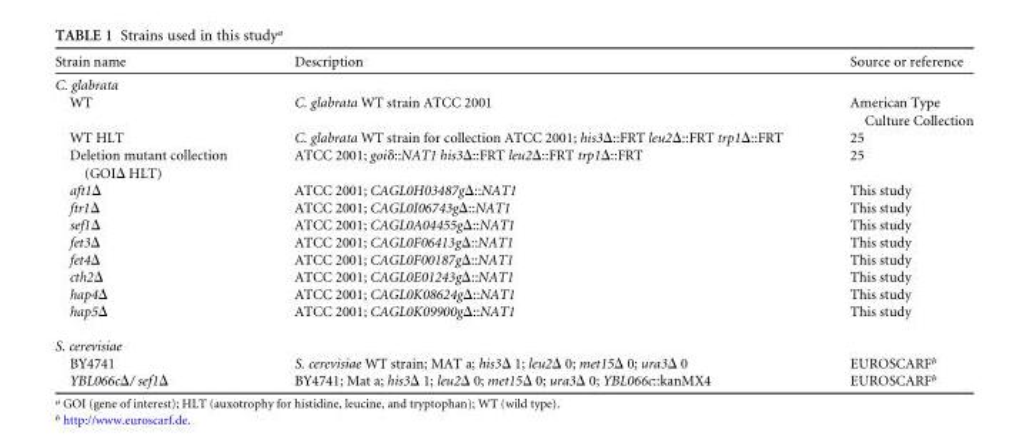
<table><thead><tr><td>Strain name</td><td>Description</td><td>Source or reference</td></tr></thead><tbody><tr><td colspan="3">C. glabrata</td></tr><tr><td>WT</td><td>C. glabrata WT strain ATCC 2001</td><td>American Type Culture Collection</td></tr><tr><td>WT HLT</td><td>C. glabrata WT strain for collection ATCC 2001; his3Δ::FRT leu2Δ::FRT trp1Δ::FRT</td><td>25</td></tr><tr><td>Deletion mutant collection (GOIΔ HLT)</td><td>ATCC 2001; goiδ::NAT1 his3Δ::FRT leu2Δ::FRT trp1Δ::FRT</td><td>25</td></tr><tr><td>aft1Δ</td><td>ATCC 2001; CAGL0H03487gΔ::NAT1</td><td>This study</td></tr><tr><td>ftr1Δ</td><td>ATCC 2001; CAGL0I06743gΔ::NAT1</td><td>This study</td></tr><tr><td>sef1Δ</td><td>ATCC 2001; CAGL0A04455gΔ::NAT1</td><td>This study</td></tr><tr><td>fet3Δ</td><td>ATCC 2001; CAGL0F06413gΔ::NAT1</td><td>This study</td></tr><tr><td>fet4Δ</td><td>ATCC 2001; CAGL0F00187gΔ::NAT1</td><td>This study</td></tr><tr><td>cth2Δ</td><td>ATCC 2001; CAGL0E01243gΔ::NAT1</td><td>This study</td></tr><tr><td>hap4Δ</td><td>ATCC 2001; CAGL0K08624gΔ::NAT1</td><td>This study</td></tr><tr><td>hap5Δ</td><td>ATCC 2001; CAGL0K09900gΔ::NAT1</td><td>This study</td></tr><tr><td colspan="3">S. cerevisiae</td></tr><tr><td>BY4741</td><td>S. cerevisiae WT strain; MAT a; his3Δ 1; leu2Δ 0; met15Δ 0; ura3Δ 0</td><td>EUROSCARF<sup>b</sup></td></tr><tr><td>YBL066cΔ/ sef1Δ</td><td>BY4741; Mat a; his3Δ 1; leu2Δ 0; met15Δ 0; ura3Δ 0; YBL066c::kanMX4</td><td>EUROSCARF<sup>b</sup></td></tr></tbody></table>